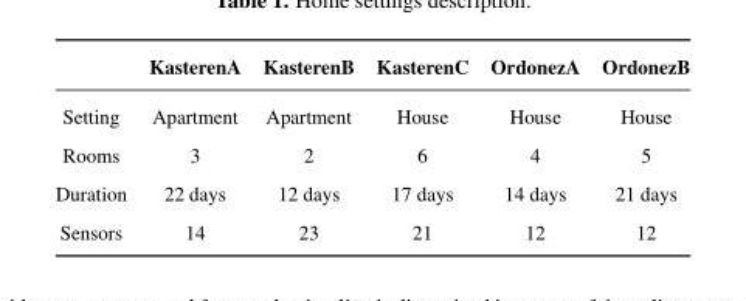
<table><thead><tr><td></td><td>KasterenA</td><td>KasterenB</td><td>KasterenC</td><td>OrdonezA</td><td>OrdonezB</td></tr></thead><tbody><tr><td>Setting</td><td>Apartment</td><td>Apartment</td><td>House</td><td>House</td><td>House</td></tr><tr><td>Rooms</td><td>3</td><td>2</td><td>6</td><td>4</td><td>5</td></tr><tr><td>Duration</td><td>22 days</td><td>12 days</td><td>17 days</td><td>14 days</td><td>21 days</td></tr><tr><td>Sensors</td><td>14</td><td>23</td><td>21</td><td>12</td><td>12</td></tr></tbody></table>